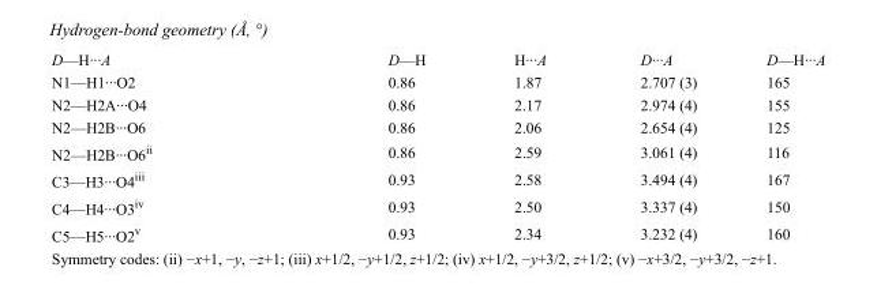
<table><tbody><tr><td>D—H···A</td><td>D—H</td><td>H···A</td><td>D···A</td><td>D—H···A</td></tr><tr><td>N1—H1···O2</td><td>0.86</td><td>1.87</td><td>2.707 (3)</td><td>165</td></tr><tr><td>N2—H2A···O4</td><td>0.86</td><td>2.17</td><td>2.974 (4)</td><td>155</td></tr><tr><td>N2—H2B···O6</td><td>0.86</td><td>2.06</td><td>2.654 (4)</td><td>125</td></tr><tr><td>N2—H2B···O6<sup>ii</sup></td><td>0.86</td><td>2.59</td><td>3.061 (4)</td><td>116</td></tr><tr><td>C3—H3···O4<sup>iii</sup></td><td>0.93</td><td>2.58</td><td>3.494 (4)</td><td>167</td></tr><tr><td>C4—H4···O3<sup>iv</sup></td><td>0.93</td><td>2.50</td><td>3.337 (4)</td><td>150</td></tr><tr><td>C5—H5···O2<sup>v</sup></td><td>0.93</td><td>2.34</td><td>3.232 (4)</td><td>160</td></tr></tbody></table>